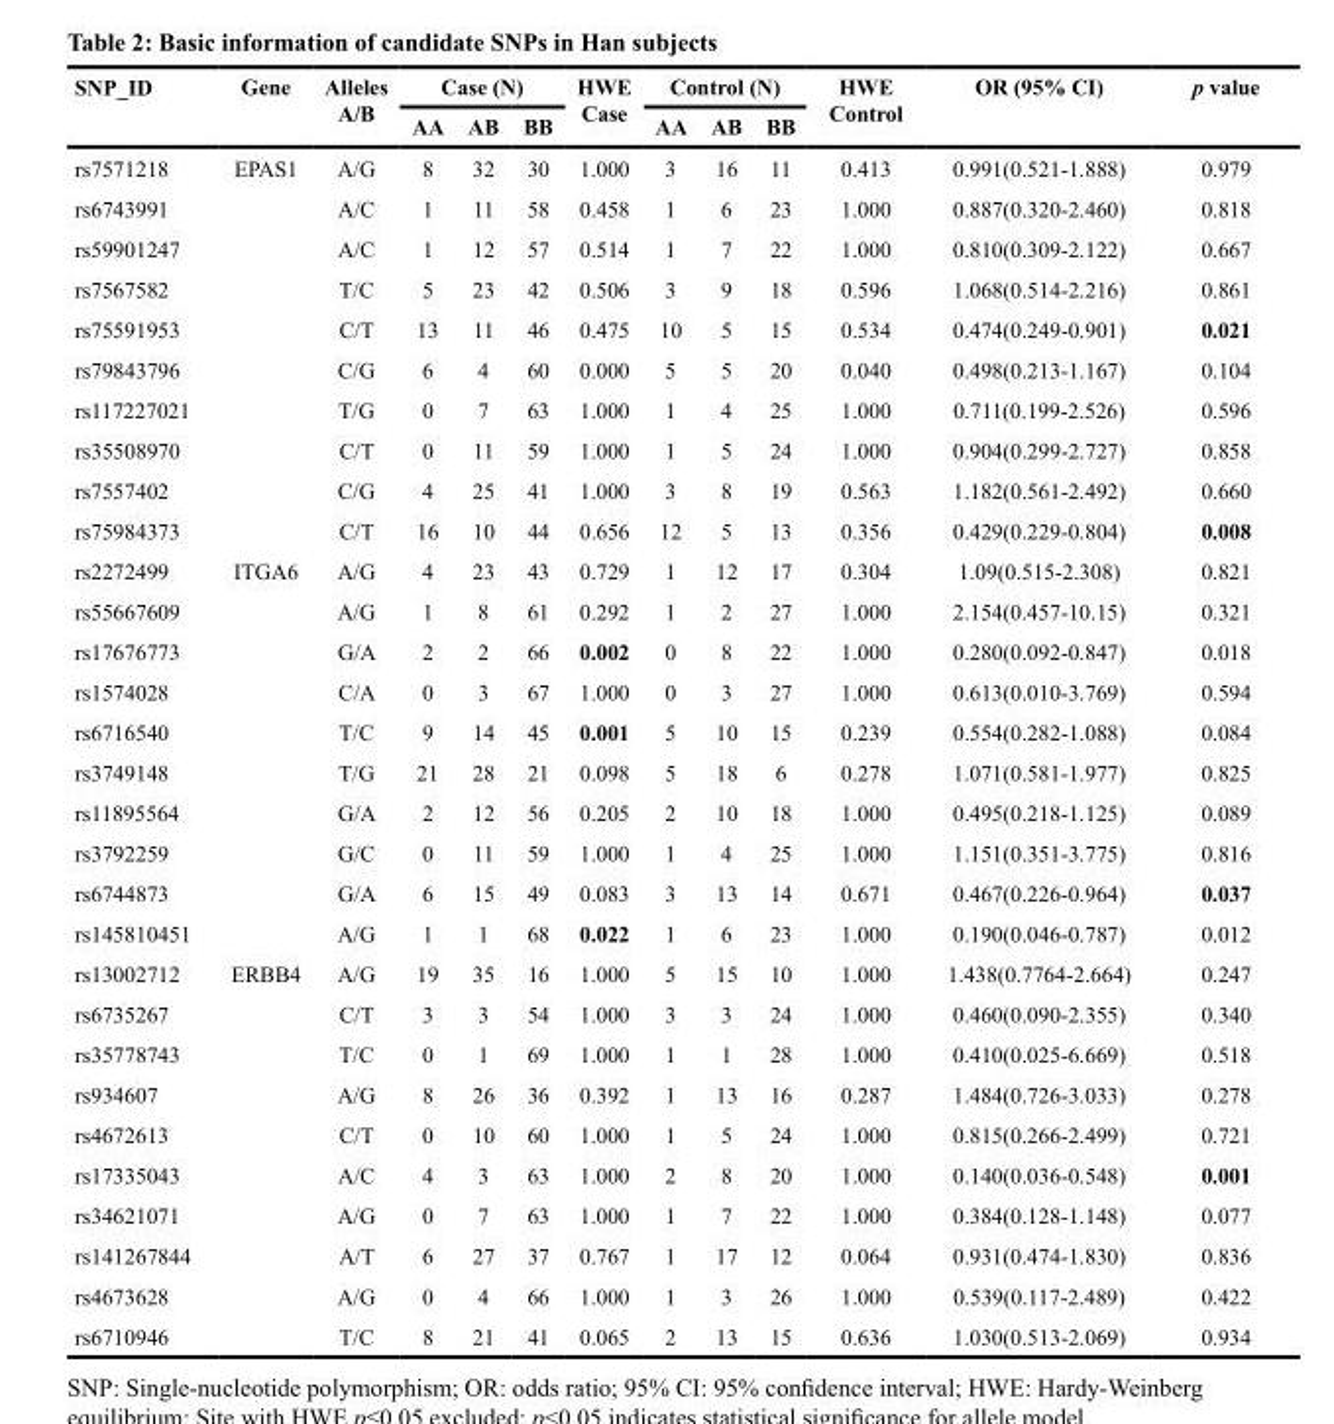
<table><thead><tr><td rowspan="2">SNP_ID</td><td rowspan="2">Gene</td><td rowspan="2">Alleles A/B</td><td colspan="3">Case (N)</td><td rowspan="2">HWE Case</td><td colspan="3">Control (N)</td><td rowspan="2">HWE Control</td><td rowspan="2">OR (95% CI)</td><td rowspan="2">p value</td></tr><tr><td>AA</td><td>AB</td><td>BB</td><td>AA</td><td>AB</td><td>BB</td></tr></thead><tbody><tr><td>rs7571218</td><td>EPAS1</td><td>A/G</td><td>8</td><td>32</td><td>30</td><td>1.000</td><td>3</td><td>16</td><td>11</td><td>0.413</td><td>0.991(0.521-1.888)</td><td>0.979</td></tr><tr><td>rs6743991</td><td></td><td>A/C</td><td>1</td><td>11</td><td>58</td><td>0.458</td><td>1</td><td>6</td><td>23</td><td>1.000</td><td>0.887(0.320-2.460)</td><td>0.818</td></tr><tr><td>rs59901247</td><td></td><td>A/C</td><td>1</td><td>12</td><td>57</td><td>0.514</td><td>1</td><td>7</td><td>22</td><td>1.000</td><td>0.810(0.309-2.122)</td><td>0.667</td></tr><tr><td>rs7567582</td><td></td><td>T/C</td><td>5</td><td>23</td><td>42</td><td>0.506</td><td>3</td><td>9</td><td>18</td><td>0.596</td><td>1.068(0.514-2.216)</td><td>0.861</td></tr><tr><td>rs75591953</td><td></td><td>C/T</td><td>13</td><td>11</td><td>46</td><td>0.475</td><td>10</td><td>5</td><td>15</td><td>0.534</td><td>0.474(0.249-0.901)</td><td>0.021</td></tr><tr><td>rs79843796</td><td></td><td>C/G</td><td>6</td><td>4</td><td>60</td><td>0.000</td><td>5</td><td>5</td><td>20</td><td>0.040</td><td>0.498(0.213-1.167)</td><td>0.104</td></tr><tr><td>rs117227021</td><td></td><td>T/G</td><td>0</td><td>7</td><td>63</td><td>1.000</td><td>1</td><td>4</td><td>25</td><td>1.000</td><td>0.711(0.199-2.526)</td><td>0.596</td></tr><tr><td>rs35508970</td><td></td><td>C/T</td><td>0</td><td>11</td><td>59</td><td>1.000</td><td>1</td><td>5</td><td>24</td><td>1.000</td><td>0.904(0.299-2.727)</td><td>0.858</td></tr><tr><td>rs7557402</td><td></td><td>C/G</td><td>4</td><td>25</td><td>41</td><td>1.000</td><td>3</td><td>8</td><td>19</td><td>0.563</td><td>1.182(0.561-2.492)</td><td>0.660</td></tr><tr><td>rs75984373</td><td></td><td>C/T</td><td>16</td><td>10</td><td>44</td><td>0.656</td><td>12</td><td>5</td><td>13</td><td>0.356</td><td>0.429(0.229-0.804)</td><td>0.008</td></tr><tr><td>rs2272499</td><td>ITGA6</td><td>A/G</td><td>4</td><td>23</td><td>43</td><td>0.729</td><td>1</td><td>12</td><td>17</td><td>0.304</td><td>1.09(0.515-2.308)</td><td>0.821</td></tr><tr><td>rs55667609</td><td></td><td>A/G</td><td>1</td><td>8</td><td>61</td><td>0.292</td><td>1</td><td>2</td><td>27</td><td>1.000</td><td>2.154(0.457-10.15)</td><td>0.321</td></tr><tr><td>rs17676773</td><td></td><td>G/A</td><td>2</td><td>2</td><td>66</td><td>0.002</td><td>0</td><td>8</td><td>22</td><td>1.000</td><td>0.280(0.092-0.847)</td><td>0.018</td></tr><tr><td>rs1574028</td><td></td><td>C/A</td><td>0</td><td>3</td><td>67</td><td>1.000</td><td>0</td><td>3</td><td>27</td><td>1.000</td><td>0.613(0.010-3.769)</td><td>0.594</td></tr><tr><td>rs6716540</td><td></td><td>T/C</td><td>9</td><td>14</td><td>45</td><td>0.001</td><td>5</td><td>10</td><td>15</td><td>0.239</td><td>0.554(0.282-1.088)</td><td>0.084</td></tr><tr><td>rs3749148</td><td></td><td>T/G</td><td>21</td><td>28</td><td>21</td><td>0.098</td><td>5</td><td>18</td><td>6</td><td>0.278</td><td>1.071(0.581-1.977)</td><td>0.825</td></tr><tr><td>rs11895564</td><td></td><td>G/A</td><td>2</td><td>12</td><td>56</td><td>0.205</td><td>2</td><td>10</td><td>18</td><td>1.000</td><td>0.495(0.218-1.125)</td><td>0.089</td></tr><tr><td>rs3792259</td><td></td><td>G/C</td><td>0</td><td>11</td><td>59</td><td>1.000</td><td>1</td><td>4</td><td>25</td><td>1.000</td><td>1.151(0.351-3.775)</td><td>0.816</td></tr><tr><td>rs6744873</td><td></td><td>G/A</td><td>6</td><td>15</td><td>49</td><td>0.083</td><td>3</td><td>13</td><td>14</td><td>0.671</td><td>0.467(0.226-0.964)</td><td>0.037</td></tr><tr><td>rs145810451</td><td></td><td>A/G</td><td>1</td><td>1</td><td>68</td><td>0.022</td><td>1</td><td>6</td><td>23</td><td>1.000</td><td>0.190(0.046-0.787)</td><td>0.012</td></tr><tr><td>rs13002712</td><td>ERBB4</td><td>A/G</td><td>19</td><td>35</td><td>16</td><td>1.000</td><td>5</td><td>15</td><td>10</td><td>1.000</td><td>1.438(0.7764-2.664)</td><td>0.247</td></tr><tr><td>rs6735267</td><td></td><td>C/T</td><td>3</td><td>3</td><td>54</td><td>1.000</td><td>3</td><td>3</td><td>24</td><td>1.000</td><td>0.460(0.090-2.355)</td><td>0.340</td></tr><tr><td>rs35778743</td><td></td><td>T/C</td><td>0</td><td>1</td><td>69</td><td>1.000</td><td>1</td><td>1</td><td>28</td><td>1.000</td><td>0.410(0.025-6.669)</td><td>0.518</td></tr><tr><td>rs934607</td><td></td><td>A/G</td><td>8</td><td>26</td><td>36</td><td>0.392</td><td>1</td><td>13</td><td>16</td><td>0.287</td><td>1.484(0.726-3.033)</td><td>0.278</td></tr><tr><td>rs4672613</td><td></td><td>C/T</td><td>0</td><td>10</td><td>60</td><td>1.000</td><td>1</td><td>5</td><td>24</td><td>1.000</td><td>0.815(0.266-2.499)</td><td>0.721</td></tr><tr><td>rs17335043</td><td></td><td>A/C</td><td>4</td><td>3</td><td>63</td><td>1.000</td><td>2</td><td>8</td><td>20</td><td>1.000</td><td>0.140(0.036-0.548)</td><td>0.001</td></tr><tr><td>rs34621071</td><td></td><td>A/G</td><td>0</td><td>7</td><td>63</td><td>1.000</td><td>1</td><td>7</td><td>22</td><td>1.000</td><td>0.384(0.128-1.148)</td><td>0.077</td></tr><tr><td>rs141267844</td><td></td><td>A/T</td><td>6</td><td>27</td><td>37</td><td>0.767</td><td>1</td><td>17</td><td>12</td><td>0.064</td><td>0.931(0.474-1.830)</td><td>0.836</td></tr><tr><td>rs4673628</td><td></td><td>A/G</td><td>0</td><td>4</td><td>66</td><td>1.000</td><td>1</td><td>3</td><td>26</td><td>1.000</td><td>0.539(0.117-2.489)</td><td>0.422</td></tr><tr><td>rs6710946</td><td></td><td>T/C</td><td>8</td><td>21</td><td>41</td><td>0.065</td><td>2</td><td>13</td><td>15</td><td>0.636</td><td>1.030(0.513-2.069)</td><td>0.934</td></tr></tbody></table>